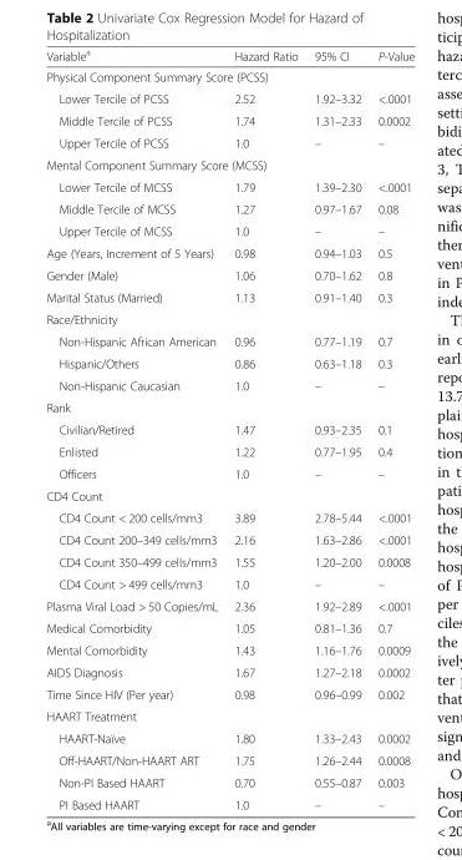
<table><thead><tr><td>Variable<sup>a</sup></td><td>Hazard Ratio</td><td>95% CI</td><td>P-Value</td></tr></thead><tbody><tr><td colspan="4">Physical Component Summary Score (PCSS)</td></tr><tr><td>Lower Tercile of PCSS</td><td>2.52</td><td>1.92–3.32</td><td>&lt;.0001</td></tr><tr><td>Middle Tercile of PCSS</td><td>1.74</td><td>1.31–2.33</td><td>0.0002</td></tr><tr><td>Upper Tercile of PCSS</td><td>1.0</td><td>–</td><td>–</td></tr><tr><td colspan="4">Mental Component Summary Score (MCSS)</td></tr><tr><td>Lower Tercile of MCSS</td><td>1.79</td><td>1.39–2.30</td><td>&lt;.0001</td></tr><tr><td>Middle Tercile of MCSS</td><td>1.27</td><td>0.97–1.67</td><td>0.08</td></tr><tr><td>Upper Tercile of MCSS</td><td>1.0</td><td>–</td><td>–</td></tr><tr><td>Age (Years, Increment of 5 Years)</td><td>0.98</td><td>0.94–1.03</td><td>0.5</td></tr><tr><td>Gender (Male)</td><td>1.06</td><td>0.70–1.62</td><td>0.8</td></tr><tr><td>Marital Status (Married)</td><td>1.13</td><td>0.91–1.40</td><td>0.3</td></tr><tr><td colspan="4">Race/Ethnicity</td></tr><tr><td>Non-Hispanic African American</td><td>0.96</td><td>0.77–1.19</td><td>0.7</td></tr><tr><td>Hispanic/Others</td><td>0.86</td><td>0.63–1.18</td><td>0.3</td></tr><tr><td>Non-Hispanic Caucasian</td><td>1.0</td><td>–</td><td>–</td></tr><tr><td colspan="4">Rank</td></tr><tr><td>Civilian/Retired</td><td>1.47</td><td>0.93–2.35</td><td>0.1</td></tr><tr><td>Enlisted</td><td>1.22</td><td>0.77–1.95</td><td>0.4</td></tr><tr><td>Officers</td><td>1.0</td><td>–</td><td>–</td></tr><tr><td colspan="4">CD4 Count</td></tr><tr><td>CD4 Count &lt; 200 cells/mm3</td><td>3.89</td><td>2.78–5.44</td><td>&lt;.0001</td></tr><tr><td>CD4 Count 200–349 cells/mm3</td><td>2.16</td><td>1.63–2.86</td><td>&lt;.0001</td></tr><tr><td>CD4 Count 350–499 cells/mm3</td><td>1.55</td><td>1.20–2.00</td><td>0.0008</td></tr><tr><td>CD4 Count &gt; 499 cells/mm3</td><td>1.0</td><td>–</td><td>–</td></tr><tr><td>Plasma Viral Load &gt; 50 Copies/mL</td><td>2.36</td><td>1.92–2.89</td><td>&lt;.0001</td></tr><tr><td>Medical Comorbidity</td><td>1.05</td><td>0.81–1.36</td><td>0.7</td></tr><tr><td>Mental Comorbidity</td><td>1.43</td><td>1.16–1.76</td><td>0.0009</td></tr><tr><td>AIDS Diagnosis</td><td>1.67</td><td>1.27–2.18</td><td>0.0002</td></tr><tr><td>Time Since HIV (Per year)</td><td>0.98</td><td>0.96–0.99</td><td>0.002</td></tr><tr><td colspan="4">HAART Treatment</td></tr><tr><td>HAART-Naïve</td><td>1.80</td><td>1.33–2.43</td><td>0.0002</td></tr><tr><td>Off-HAART/Non-HAART ART</td><td>1.75</td><td>1.26–2.44</td><td>0.0008</td></tr><tr><td>Non-PI Based HAART</td><td>0.70</td><td>0.55–0.87</td><td>0.003</td></tr><tr><td>PI Based HAART</td><td>1.0</td><td>–</td><td>–</td></tr></tbody></table>